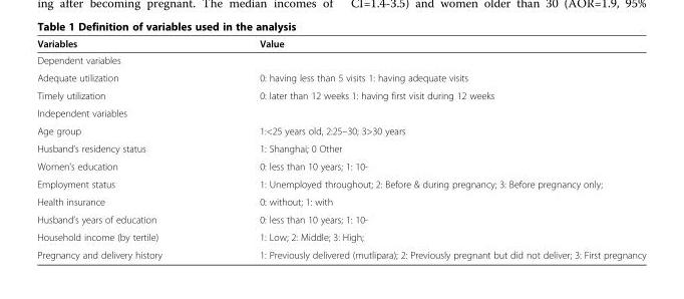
<table><thead><tr><td>Variables</td><td>Value</td></tr></thead><tbody><tr><td colspan="2">Dependent variables</td></tr><tr><td>Adequate utilization</td><td>0: having less than 5 visits 1: having adequate visits</td></tr><tr><td>Timely utilization</td><td>0: later than 12 weeks 1: having first visit during 12 weeks</td></tr><tr><td colspan="2">Independent variables</td></tr><tr><td>Age group</td><td>1:&lt;25 years old, 2:25–30; 3&gt;30 years</td></tr><tr><td>Husband’s residency status</td><td>1: Shanghai; 0 Other</td></tr><tr><td>Women’s education</td><td>0: less than 10 years; 1: 10-</td></tr><tr><td>Employment status</td><td>1: Unemployed throughout; 2: Before &amp; during pregnancy; 3: Before pregnancy only;</td></tr><tr><td>Health insurance</td><td>0: without; 1: with</td></tr><tr><td>Husband’s years of education</td><td>0: less than 10 years; 1: 10-</td></tr><tr><td>Household income (by tertile)</td><td>1: Low; 2: Middle; 3: High;</td></tr><tr><td>Pregnancy and delivery history</td><td>1: Previously delivered (mutlipara); 2: Previously pregnant but did not deliver; 3: First pregnancy</td></tr></tbody></table>